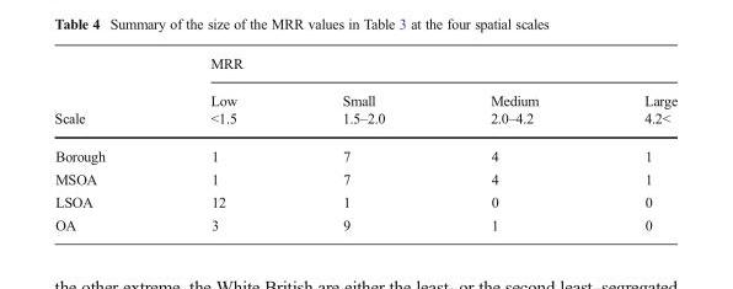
<table><thead><tr><td rowspan="2">Scale</td><td colspan="4">MRR</td></tr><tr><td>Low &lt;1.5</td><td>Small 1.5–2.0</td><td>Medium 2.0–4.2</td><td>Large 4.2&lt;</td></tr></thead><tbody><tr><td>Borough</td><td>1</td><td>7</td><td>4</td><td>1</td></tr><tr><td>MSOA</td><td>1</td><td>7</td><td>4</td><td>1</td></tr><tr><td>LSOA</td><td>12</td><td>1</td><td>0</td><td>0</td></tr><tr><td>OA</td><td>3</td><td>9</td><td>1</td><td>0</td></tr></tbody></table>